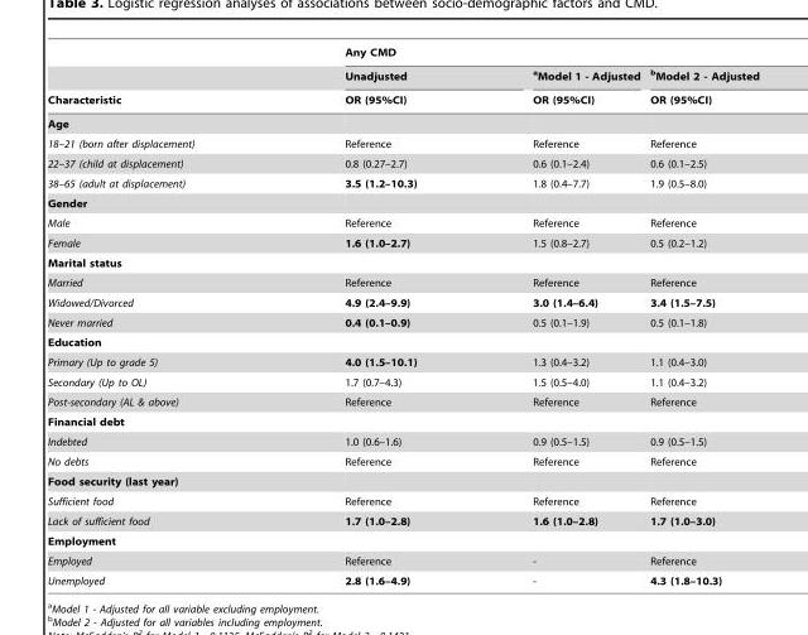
<table><thead><tr><td rowspan="3">Characteristic</td><td colspan="3">Any CMD</td></tr><tr><td rowspan="2">Unadjusted OR (95%CI)</td><td rowspan="2">aModel 1 - Adjusted OR (95%CI)</td><td rowspan="2">bModel 2 - Adjusted OR (95%CI)</td></tr><tr></tr></thead><tbody><tr><td colspan="4">Age</td></tr><tr><td>18–21 (born after displacement)</td><td>Reference</td><td>Reference</td><td>Reference</td></tr><tr><td>22–37 (child at displacement)</td><td>0.8 (0.27–2.7)</td><td>0.6 (0.1–2.4)</td><td>0.6 (0.1–2.5)</td></tr><tr><td>38–65 (adult at displacement)</td><td>3.5 (1.2–10.3)</td><td>1.8 (0.4–7.7)</td><td>1.9 (0.5–8.0)</td></tr><tr><td colspan="4">Gender</td></tr><tr><td>Male</td><td>Reference</td><td>Reference</td><td>Reference</td></tr><tr><td>Female</td><td>1.6 (1.0–2.7)</td><td>1.5 (0.8–2.7)</td><td>0.5 (0.2–1.2)</td></tr><tr><td colspan="4">Marital status</td></tr><tr><td>Married</td><td>Reference</td><td>Reference</td><td>Reference</td></tr><tr><td>Widowed/Divorced</td><td>4.9 (2.4–9.9)</td><td>3.0 (1.4–6.4)</td><td>3.4 (1.5–7.5)</td></tr><tr><td>Never married</td><td>0.4 (0.1–0.9)</td><td>0.5 (0.1–1.9)</td><td>0.5 (0.1–1.8)</td></tr><tr><td colspan="4">Education</td></tr><tr><td>Primary (Up to grade 5)</td><td>4.0 (1.5–10.1)</td><td>1.3 (0.4–3.2)</td><td>1.1 (0.4–3.0)</td></tr><tr><td>Secondary (Up to OL)</td><td>1.7 (0.7–4.3)</td><td>1.5 (0.5–4.0)</td><td>1.1 (0.4–3.2)</td></tr><tr><td>Post-secondary (AL &amp; above)</td><td>Reference</td><td>Reference</td><td>Reference</td></tr><tr><td colspan="4">Financial debt</td></tr><tr><td>Indebted</td><td>1.0 (0.6–1.6)</td><td>0.9 (0.5–1.5)</td><td>0.9 (0.5–1.5)</td></tr><tr><td>No debts</td><td>Reference</td><td>Reference</td><td>Reference</td></tr><tr><td colspan="4">Food security (last year)</td></tr><tr><td>Sufficient food</td><td>Reference</td><td>Reference</td><td>Reference</td></tr><tr><td>Lack of sufficient food</td><td>1.7 (1.0–2.8)</td><td>1.6 (1.0–2.8)</td><td>1.7 (1.0–3.0)</td></tr><tr><td colspan="4">Employment</td></tr><tr><td>Employed</td><td>Reference</td><td>-</td><td>Reference</td></tr><tr><td>Unemployed</td><td>2.8 (1.6–4.9)</td><td>-</td><td>4.3 (1.8–10.3)</td></tr></tbody></table>